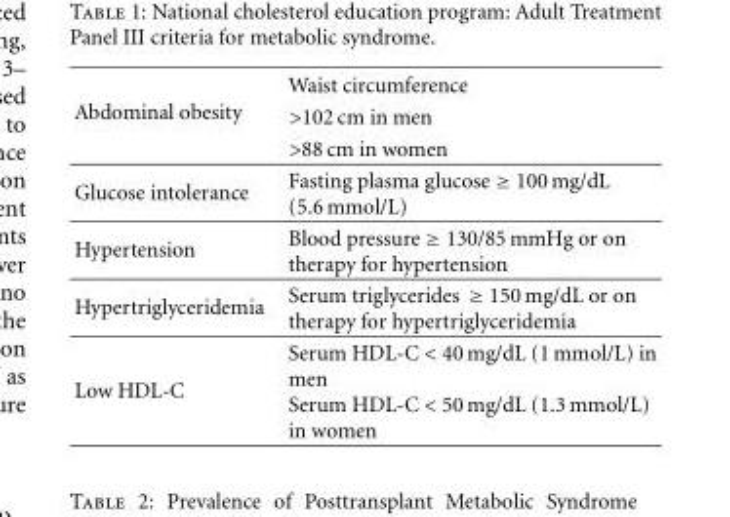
<table><tbody><tr><td rowspan="3">Abdominal obesity</td><td>Waist circumference</td></tr><tr><td>&gt;102 cm in men</td></tr><tr><td>&gt;88 cm in women</td></tr><tr><td>Glucose intolerance</td><td>Fasting plasma glucose ≥ 100 mg/dL (5.6 mmol/L)</td></tr><tr><td>Hypertension</td><td>Blood pressure ≥ 130/85 mmHg or on therapy for hypertension</td></tr><tr><td>Hypertriglyceridemia</td><td>Serum triglycerides ≥ 150 mg/dL or on therapy for hypertriglyceridemia</td></tr><tr><td>Low HDL-C</td><td>Serum HDL-C &lt; 40 mg/dL (1 mmol/L) in men Serum HDL-C &lt; 50 mg/dL (1.3 mmol/L) in women</td></tr></tbody></table>